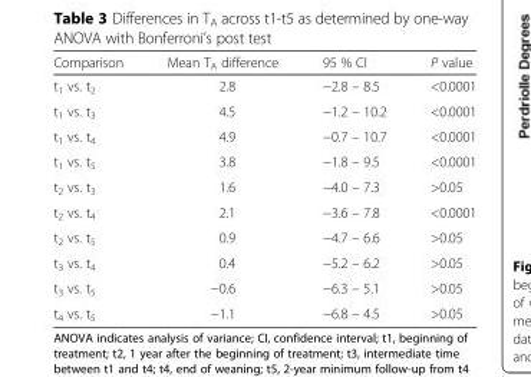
<table><thead><tr><td>Comparison</td><td>Mean T<sub>A</sub> difference</td><td>95 % CI</td><td>P value</td></tr></thead><tbody><tr><td>t<sub>1</sub> vs. t<sub>2</sub></td><td>2.8</td><td>−2.8 – 8.5</td><td>&lt;0.0001</td></tr><tr><td>t<sub>1</sub> vs. t<sub>3</sub></td><td>4.5</td><td>−1.2 – 10.2</td><td>&lt;0.0001</td></tr><tr><td>t<sub>1</sub> vs. t<sub>4</sub></td><td>4.9</td><td>−0.7 – 10.7</td><td>&lt;0.0001</td></tr><tr><td>t<sub>1</sub> vs. t<sub>5</sub></td><td>3.8</td><td>−1.8 – 9.5</td><td>&lt;0.0001</td></tr><tr><td>t<sub>2</sub> vs. t<sub>3</sub></td><td>1.6</td><td>−4.0 – 7.3</td><td>&gt;0.05</td></tr><tr><td>t<sub>2</sub> vs. t<sub>4</sub></td><td>2.1</td><td>−3.6 – 7.8</td><td>&lt;0.0001</td></tr><tr><td>t<sub>2</sub> vs. t<sub>5</sub></td><td>0.9</td><td>−4.7 – 6.6</td><td>&gt;0.05</td></tr><tr><td>t<sub>3</sub> vs. t<sub>4</sub></td><td>0.4</td><td>−5.2 – 6.2</td><td>&gt;0.05</td></tr><tr><td>t<sub>3</sub> vs. t<sub>5</sub></td><td>−0.6</td><td>−6.3 – 5.1</td><td>&gt;0.05</td></tr><tr><td>t<sub>4</sub> vs. t<sub>5</sub></td><td>−1.1</td><td>−6.8 – 4.5</td><td>&gt;0.05</td></tr></tbody></table>